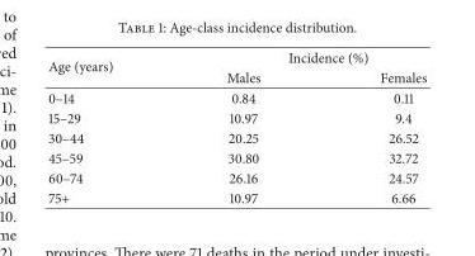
<table><thead><tr><td rowspan="2">Age (years)</td><td colspan="2">Incidence (%)</td></tr><tr><td>Males</td><td>Females</td></tr></thead><tbody><tr><td>0–14</td><td>0.84</td><td>0.11</td></tr><tr><td>15–29</td><td>10.97</td><td>9.4</td></tr><tr><td>30–44</td><td>20.25</td><td>26.52</td></tr><tr><td>45–59</td><td>30.80</td><td>32.72</td></tr><tr><td>60–74</td><td>26.16</td><td>24.57</td></tr><tr><td>75+</td><td>10.97</td><td>6.66</td></tr></tbody></table>